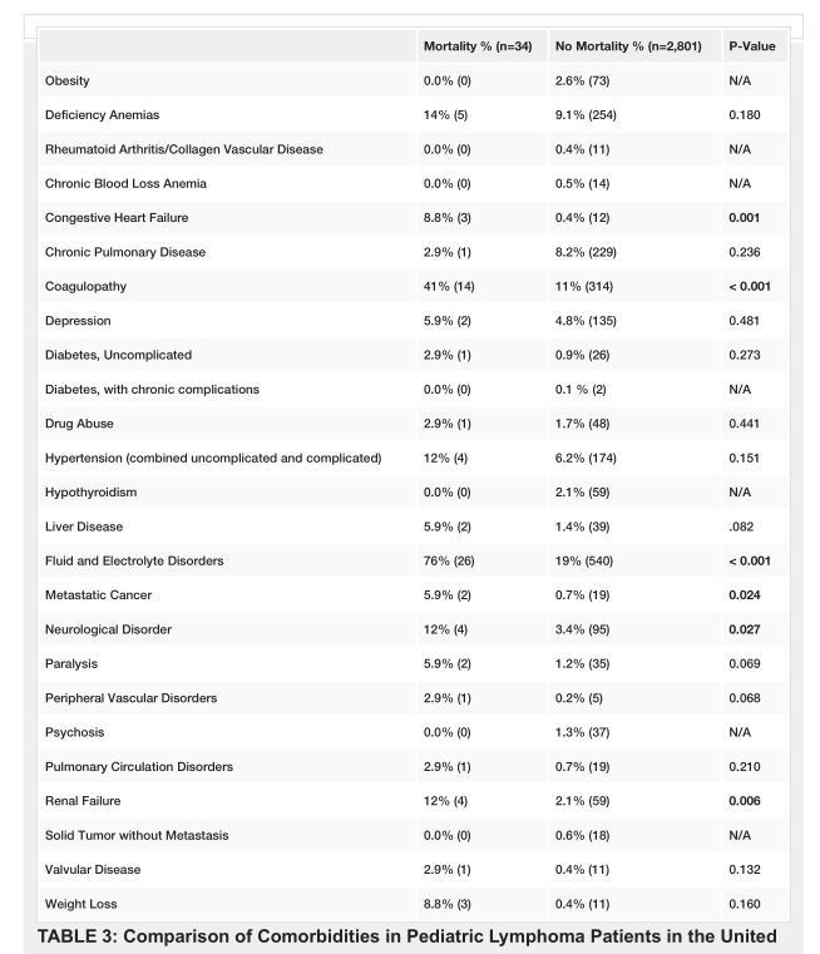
<table><thead><tr><td></td><td>Mortality % (n=34)</td><td>No Mortality % (n=2,801)</td><td>P-Value</td></tr></thead><tbody><tr><td>Obesity</td><td>0.0% (0)</td><td>2.6% (73)</td><td>N/A</td></tr><tr><td>Deficiency Anemias</td><td>14% (5)</td><td>9.1% (254)</td><td>0.180</td></tr><tr><td>Rheumatoid Arthritis/Collagen Vascular Disease</td><td>0.0% (0)</td><td>0.4% (11)</td><td>N/A</td></tr><tr><td>Chronic Blood Loss Anemia</td><td>0.0% (0)</td><td>0.5% (14)</td><td>N/A</td></tr><tr><td>Congestive Heart Failure</td><td>8.8% (3)</td><td>0.4% (12)</td><td>0.001</td></tr><tr><td>Chronic Pulmonary Disease</td><td>2.9% (1)</td><td>8.2% (229)</td><td>0.236</td></tr><tr><td>Coagulopathy</td><td>41% (14)</td><td>11% (314)</td><td>&lt; 0.001</td></tr><tr><td>Depression</td><td>5.9% (2)</td><td>4.8% (135)</td><td>0.481</td></tr><tr><td>Diabetes, Uncomplicated</td><td>2.9% (1)</td><td>0.9% (26)</td><td>0.273</td></tr><tr><td>Diabetes, with chronic complications</td><td>0.0% (0)</td><td>0.1 % (2)</td><td>N/A</td></tr><tr><td>Drug Abuse</td><td>2.9% (1)</td><td>1.7% (48)</td><td>0.441</td></tr><tr><td>Hypertension (combined uncomplicated and complicated)</td><td>12% (4)</td><td>6.2% (174)</td><td>0.151</td></tr><tr><td>Hypothyroidism</td><td>0.0% (0)</td><td>2.1% (59)</td><td>N/A</td></tr><tr><td>Liver Disease</td><td>5.9% (2)</td><td>1.4% (39)</td><td>.082</td></tr><tr><td>Fluid and Electrolyte Disorders</td><td>76% (26)</td><td>19% (540)</td><td>&lt; 0.001</td></tr><tr><td>Metastatic Cancer</td><td>5.9% (2)</td><td>0.7% (19)</td><td>0.024</td></tr><tr><td>Neurological Disorder</td><td>12% (4)</td><td>3.4% (95)</td><td>0.027</td></tr><tr><td>Paralysis</td><td>5.9% (2)</td><td>1.2% (35)</td><td>0.069</td></tr><tr><td>Peripheral Vascular Disorders</td><td>2.9% (1)</td><td>0.2% (5)</td><td>0.068</td></tr><tr><td>Psychosis</td><td>0.0% (0)</td><td>1.3% (37)</td><td>N/A</td></tr><tr><td>Pulmonary Circulation Disorders</td><td>2.9% (1)</td><td>0.7% (19)</td><td>0.210</td></tr><tr><td>Renal Failure</td><td>12% (4)</td><td>2.1% (59)</td><td>0.006</td></tr><tr><td>Solid Tumor without Metastasis</td><td>0.0% (0)</td><td>0.6% (18)</td><td>N/A</td></tr><tr><td>Valvular Disease</td><td>2.9% (1)</td><td>0.4% (11)</td><td>0.132</td></tr><tr><td>Weight Loss</td><td>8.8% (3)</td><td>0.4% (11)</td><td>0.160</td></tr></tbody></table>